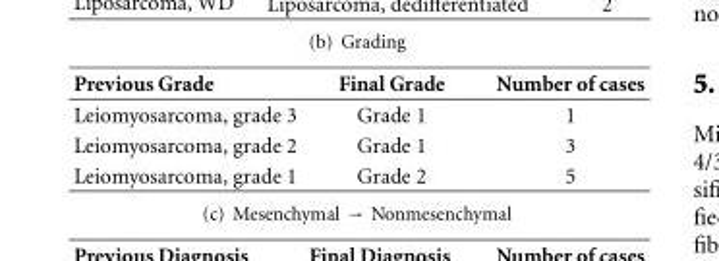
<table><thead><tr><td>Previous Grade</td><td>Final Grade</td><td>Number of cases</td></tr></thead><tbody><tr><td>Leiomyosarcoma, grade 3</td><td>Grade 1</td><td>1</td></tr><tr><td>Leiomyosarcoma, grade 2</td><td>Grade 1</td><td>3</td></tr><tr><td>Leiomyosarcoma, grade 1</td><td>Grade 2</td><td>5</td></tr></tbody></table>